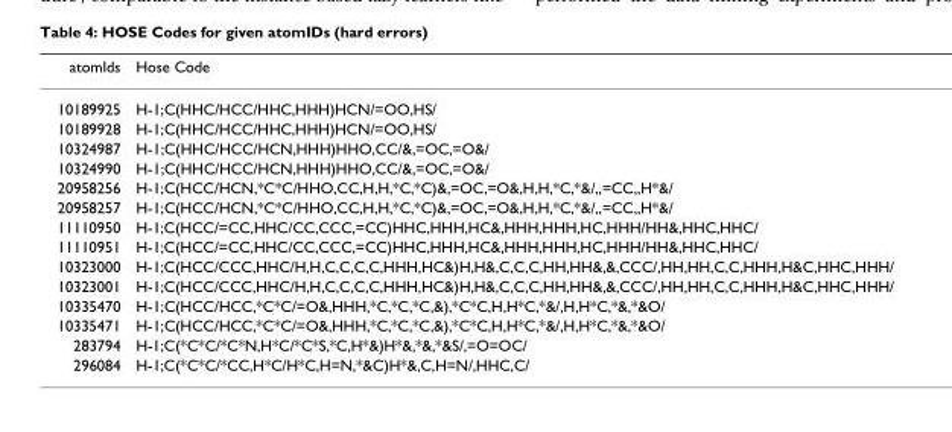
<table><thead><tr><td>atomIds</td><td>Hose Code</td></tr></thead><tbody><tr><td>10189925</td><td>H-1;C(HHC/HCC/HHC,HHH)HCN/=OO,HS/</td></tr><tr><td>10189928</td><td>H-1;C(HHC/HCC/HHC,HHH)HCN/=OO,HS/</td></tr><tr><td>10324987</td><td>H-1;C(HHC/HCC/HCN,HHH)HHO,CC/&amp;,=OC,=O&amp;/</td></tr><tr><td>10324990</td><td>H-1;C(HHC/HCC/HCN,HHH)HHO,CC/&amp;,=OC,=O&amp;/</td></tr><tr><td>20958256</td><td>H-1;C(HCC/HCN,*C*C/HHO,CC,H,H,*C,*C)&amp;,=OC,=O&amp;,H,H,*C,*&amp;/,,=CC,,H*&amp;/</td></tr><tr><td>20958257</td><td>H-1;C(HCC/HCN,*C*C/HHO,CC,H,H,*C,*C)&amp;,=OC,=O&amp;,H,H,*C,*&amp;/,,=CC,,H*&amp;/</td></tr><tr><td>11110950</td><td>H-1;C(HCC/=CC,HHC/CC,CCC,=CC)HHC,HHH,HC&amp;,HHH,HHH,HC,HHH/HH&amp;,HHC,HHC/</td></tr><tr><td>11110951</td><td>H-1;C(HCC/=CC,HHC/CC,CCC,=CC)HHC,HHH,HC&amp;,HHH,HHH,HC,HHH/HH&amp;,HHC,HHC/</td></tr><tr><td>10323000</td><td>H-1;C(HCC/CCC,HHC/H,H,C,C,C,C,HHH,HC&amp;)H,H&amp;,C,C,C,HH,HH&amp;,&amp;,CCC/,HH,HH,C,C,HHH,H&amp;C,HHC,HHH/</td></tr><tr><td>10323001</td><td>H-1;C(HCC/CCC,HHC/H,H,C,C,C,C,HHH,HC&amp;)H,H&amp;,C,C,C,HH,HH&amp;,&amp;,CCC/,HH,HH,C,C,HHH,H&amp;C,HHC,HHH/</td></tr><tr><td>10335470</td><td>H-1;C(HCC/HCC,*C*C/=O&amp;,HHH,*C,*C,*C,&amp;),*C*C,H,H*C,*&amp;/,H,H*C,*&amp;,*&amp;O/</td></tr><tr><td>10335471</td><td>H-1;C(HCC/HCC,*C*C/=O&amp;,HHH,*C,*C,*C,&amp;),*C*C,H,H*C,*&amp;/,H,H*C,*&amp;,*&amp;O/</td></tr><tr><td>283794</td><td>H-1;C(*C*C/*C*N,H*C/*C*S,*C,H*&amp;)H*&amp;,*&amp;,*&amp;S/,=O=OC/</td></tr><tr><td>296084</td><td>H-1;C(*C*C/*CC,H*C/H*C,H=N,*&amp;C)H*&amp;,C,H=N/,HHC,C/</td></tr></tbody></table>